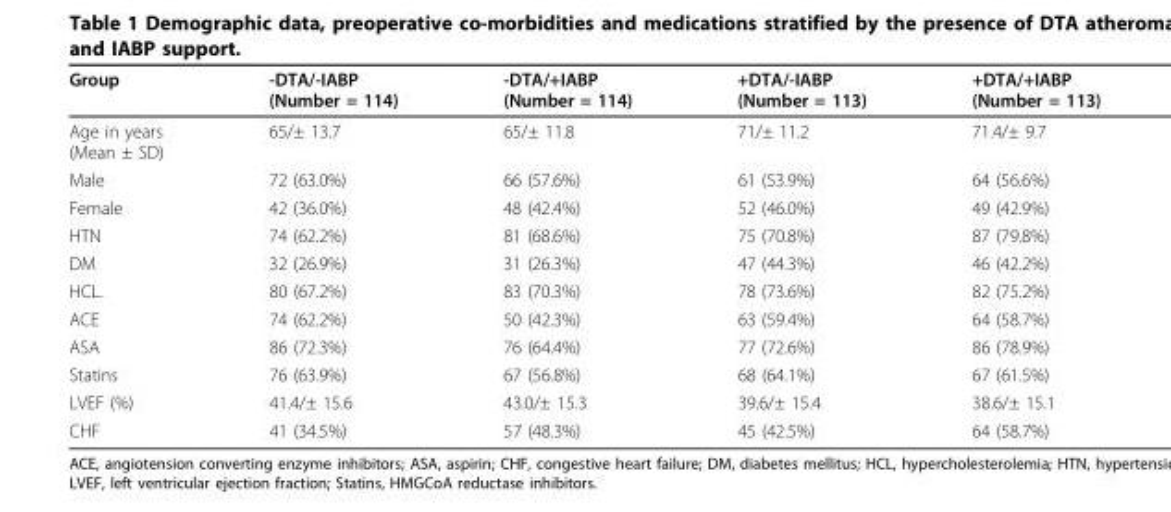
<table><thead><tr><td>Group</td><td>-DTA/-IABP (Number = 114)</td><td>-DTA/+IABP (Number = 114)</td><td>+DTA/-IABP (Number = 113)</td><td>+DTA/+IABP (Number = 113)</td></tr></thead><tbody><tr><td>Age in years (Mean ± SD)</td><td>65/± 13.7</td><td>65/± 11.8</td><td>71/± 11.2</td><td>71.4/± 9.7</td></tr><tr><td>Male</td><td>72 (63.0%)</td><td>66 (57.6%)</td><td>61 (53.9%)</td><td>64 (56.6%)</td></tr><tr><td>Female</td><td>42 (36.0%)</td><td>48 (42.4%)</td><td>52 (46.0%)</td><td>49 (42.9%)</td></tr><tr><td>HTN</td><td>74 (62.2%)</td><td>81 (68.6%)</td><td>75 (70.8%)</td><td>87 (79.8%)</td></tr><tr><td>DM</td><td>32 (26.9%)</td><td>31 (26.3%)</td><td>47 (44.3%)</td><td>46 (42.2%)</td></tr><tr><td>HCL.</td><td>80 (67.2%)</td><td>83 (70.3%)</td><td>78 (73.6%)</td><td>82 (75.2%)</td></tr><tr><td>ACE</td><td>74 (62.2%)</td><td>50 (42.3%)</td><td>63 (59.4%)</td><td>64 (58.7%)</td></tr><tr><td>ASA</td><td>86 (72.3%)</td><td>76 (64.4%)</td><td>77 (72.6%)</td><td>86 (78.9%)</td></tr><tr><td>Statins</td><td>76 (63.9%)</td><td>67 (56.8%)</td><td>68 (64.1%)</td><td>67 (61.5%)</td></tr><tr><td>LVEF (%)</td><td>41.4/± 15.6</td><td>43.0/± 15.3</td><td>39.6/± 15.4</td><td>38.6/± 15.1</td></tr><tr><td>CHF</td><td>41 (34.5%)</td><td>57 (48.3%)</td><td>45 (42.5%)</td><td>64 (58.7%)</td></tr></tbody></table>